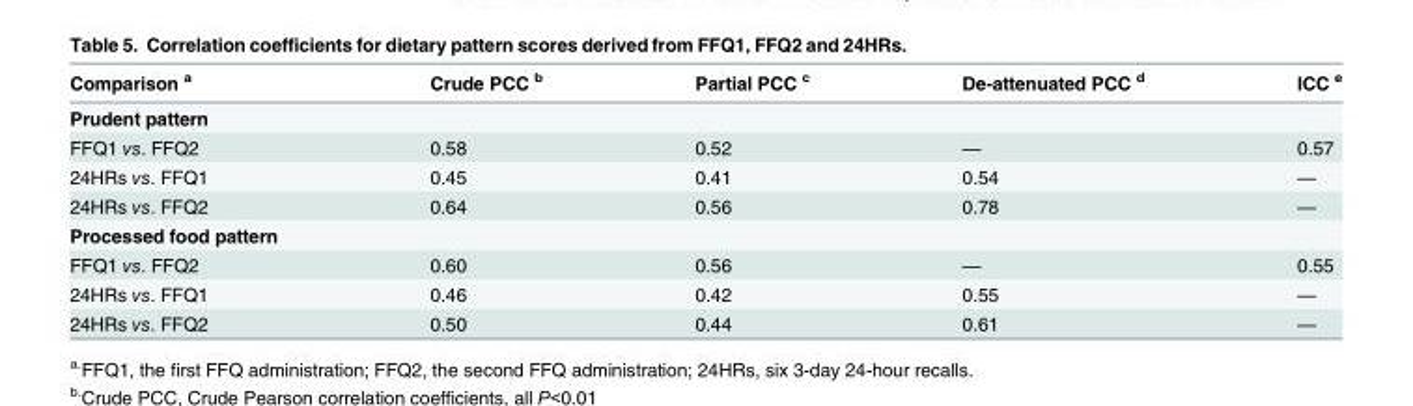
<table><thead><tr><td>Comparison <sup>a</sup></td><td>Crude PCC <sup>b</sup></td><td>Partial PCC <sup>c</sup></td><td>De-attenuated PCC <sup>d</sup></td><td>ICC <sup>e</sup></td></tr></thead><tbody><tr><td colspan="5">Prudent pattern</td></tr><tr><td>FFQ1 vs. FFQ2</td><td>0.58</td><td>0.52</td><td>—</td><td>0.57</td></tr><tr><td>24HRs vs. FFQ1</td><td>0.45</td><td>0.41</td><td>0.54</td><td>—</td></tr><tr><td>24HRs vs. FFQ2</td><td>0.64</td><td>0.56</td><td>0.78</td><td>—</td></tr><tr><td colspan="5">Processed food pattern</td></tr><tr><td>FFQ1 vs. FFQ2</td><td>0.60</td><td>0.56</td><td>—</td><td>0.55</td></tr><tr><td>24HRs vs. FFQ1</td><td>0.46</td><td>0.42</td><td>0.55</td><td>—</td></tr><tr><td>24HRs vs. FFQ2</td><td>0.50</td><td>0.44</td><td>0.61</td><td>—</td></tr></tbody></table>